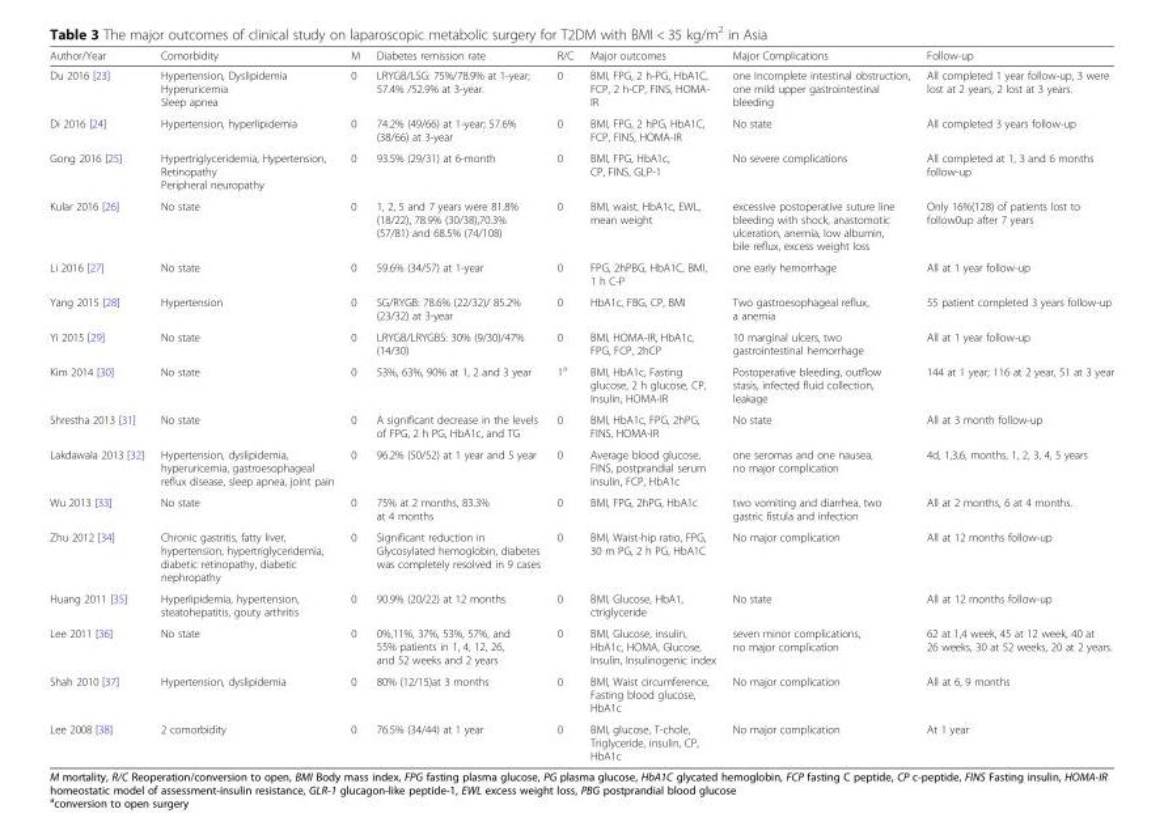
<table><thead><tr><td>Author/Year</td><td>Comorbidity</td><td>M</td><td>Diabetes remission rate</td><td>R/C</td><td>Major outcomes</td><td>Major Complications</td><td>Follow-up</td></tr></thead><tbody><tr><td>Du 2016 [23]</td><td>Hypertension, Dyslipidemia Hyperuricemia Sleep apnea</td><td>0</td><td>LRYGB/LSG: 75%/78.9% at 1-year; 57.4% /52.9% at 3-year.</td><td>0</td><td>BMI, FPG, 2 h-PG, HbA1C, FCP, 2 h-CP, FINS, HOMA- IR</td><td>one Incomplete intestinal obstruction, one mild upper gastrointestinal bleeding</td><td>All completed 1 year follow-up, 3 were lost at 2 years, 2 lost at 3 years.</td></tr><tr><td>Di 2016 [24]</td><td>Hypertension, hyperlipidemia</td><td>0</td><td>74.2% (49/66) at 1-year; 57.6% (38/66) at 3-year</td><td>0</td><td>BMI, FPG, 2 hPG, HbA1C, FCP, FINS, HOMA-IR</td><td>No state</td><td>All completed 3 years follow-up</td></tr><tr><td>Gong 2016 [25]</td><td>Hypertriglyceridemia, Hypertension, Retinopathy Peripheral neuropathy</td><td>0</td><td>93.5% (29/31) at 6-month</td><td>0</td><td>BMI, FPG, HbA1c, CP, FINS, GLP-1</td><td>No severe complications</td><td>All completed at 1, 3 and 6 months follow-up</td></tr><tr><td>Kular 2016 [26]</td><td>No state</td><td>0</td><td>1, 2, 5 and 7 years were 81.8% (18/22), 78.9% (30/38),70.3% (57/81) and 68.5% (74/108)</td><td>0</td><td>BMI, waist, HbA1c, EWL, mean weight</td><td>excessive postoperative suture line bleeding with shock, anastomotic ulceration, anemia, low albumin, bile reflux, excess weight loss</td><td>Only 16%(128) of patients lost to follow0up after 7 years</td></tr><tr><td>Li 2016 [27]</td><td>No state</td><td>0</td><td>59.6% (34/57) at 1-year</td><td>0</td><td>FPG, 2hPBG, HbA1C, BMI, 1 h C-P</td><td>one early hemorrhage</td><td>All at 1 year follow-up</td></tr><tr><td>Yang 2015 [28]</td><td>Hypertension</td><td>0</td><td>SG/RYGB: 78.6% (22/32)/ 85.2% (23/32) at 3-year</td><td>0</td><td>HbA1c, FBG, CP, BMI</td><td>Two gastroesophageal reflux, a anemia</td><td>55 patient completed 3 years follow-up</td></tr><tr><td>Yi 2015 [29]</td><td>No state</td><td>0</td><td>LRYGB/LRYGBS: 30% (9/30)/47% (14/30)</td><td>0</td><td>BMI, HOMA-IR, HbA1c, FPG, FCP, 2hCP</td><td>10 marginal ulcers, two gastrointestinal hemorrhage</td><td>All at 1 year follow-up</td></tr><tr><td>Kim 2014 [30]</td><td>No state</td><td>0</td><td>53%, 63%, 90% at 1, 2 and 3 year</td><td>1<sup>a</sup></td><td>BMI, HbA1c, Fasting glucose, 2 h glucose, CP, Insulin, HOMA-IR</td><td>Postoperative bleeding, outflow stasis, infected fluid collection, leakage</td><td>144 at 1 year; 116 at 2 year, 51 at 3 year</td></tr><tr><td>Shrestha 2013 [31]</td><td>No state</td><td>0</td><td>A significant decrease in the levels of FPG, 2 h PG, HbA1c, and TG</td><td>0</td><td>BMI, HbA1c, FPG, 2hPG, FINS, HOMA-IR</td><td>No state</td><td>All at 3 month follow-up</td></tr><tr><td>Lakdawala 2013 [32]</td><td>Hypertension, dyslipidemia, hyperuricemia, gastroesophageal reflux disease, sleep apnea, joint pain</td><td>0</td><td>96.2% (50/52) at 1 year and 5 year</td><td>0</td><td>Average blood glucose, FINS, postprandial serum insulin, FCP, HbA1c</td><td>one seromas and one nausea, no major complication</td><td>4d, 1,3,6, months, 1, 2, 3, 4, 5 years</td></tr><tr><td>Wu 2013 [33]</td><td>No state</td><td>0</td><td>75% at 2 months, 83.3% at 4 months</td><td>0</td><td>BMI, FPG, 2hPG, HbA1c</td><td>two vomiting and diarrhea, two gastric fistula and infection</td><td>All at 2 months, 6 at 4 months.</td></tr><tr><td>Zhu 2012 [34]</td><td>Chronic gastritis, fatty liver, hypertension, hypertriglyceridemia, diabetic retinopathy, diabetic nephropathy</td><td>0</td><td>Significant reduction in Glycosylated hemoglobin, diabetes was completely resolved in 9 cases</td><td>0</td><td>BMI, Waist-hip ratio, FPG, 30 m PG, 2 h PG, HbA1C</td><td>No major complication</td><td>All at 12 months follow-up</td></tr><tr><td>Huang 2011 [35]</td><td>Hyperlipidemia, hypertension, steatohepatitis, gouty arthritis</td><td>0</td><td>90.9% (20/22) at 12 months.</td><td>0</td><td>BMI, Glucose, HbA1, ctriglyceride</td><td>No state</td><td>All at 12 months follow-up</td></tr><tr><td>Lee 2011 [36]</td><td>No state</td><td>0</td><td>0%,11%, 37%, 53%, 57%, and 55% patients in 1, 4, 12, 26, and 52 weeks and 2 years</td><td>0</td><td>BMI, Glucose, insulin, HbA1c, HOMA, Glucose, Insulin, Insulinogenic index</td><td>seven minor complications, no major complication</td><td>62 at 1,4 week, 45 at 12 week, 40 at 26 weeks, 30 at 52 weeks, 20 at 2 years.</td></tr><tr><td>Shah 2010 [37]</td><td>Hypertension, dyslipidemia</td><td>0</td><td>80% (12/15)at 3 months</td><td>0</td><td>BMI, Waist circumference, Fasting blood glucose, HbA1c</td><td>No major complication</td><td>All at 6, 9 months</td></tr><tr><td>Lee 2008 [38]</td><td>2 comorbidity</td><td>0</td><td>76.5% (34/44) at 1 year</td><td>0</td><td>BMI, glucose, T-chole, Triglyceride, insulin, CP, HbA1c</td><td>No major complication</td><td>At 1 year</td></tr></tbody></table>